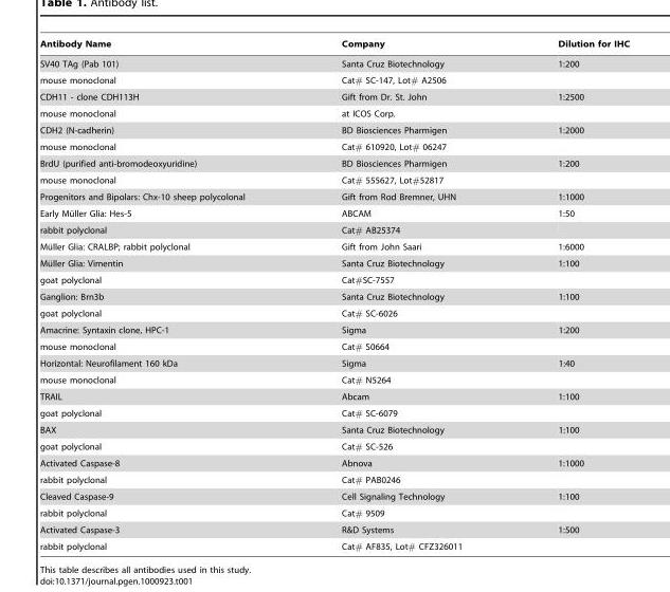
<table><thead><tr><td>Antibody Name</td><td>Company</td><td>Dilution for IHC</td></tr></thead><tbody><tr><td>SV40 TAg (Pab 101)</td><td>Santa Cruz Biotechnology</td><td>1:200</td></tr><tr><td>mouse monoclonal</td><td>Cat# SC-147, Lot# A2506</td><td></td></tr><tr><td>CDH11 - clone CDH113H</td><td>Gift from Dr. St. John</td><td>1:2500</td></tr><tr><td>mouse monoclonal</td><td>at ICOS Corp.</td><td></td></tr><tr><td>CDH2 (N-cadherin)</td><td>BD Biosciences Pharmigen</td><td>1:2000</td></tr><tr><td>mouse monoclonal</td><td>Cat# 610920, Lot# 06247</td><td></td></tr><tr><td>BrdU (purified anti-bromodeoxyuridine)</td><td>BD Biosciences Pharmigen</td><td>1:200</td></tr><tr><td>mouse monoclonal</td><td>Cat# 555627, Lot#52817</td><td></td></tr><tr><td>Progenitors and Bipolars: Chx-10 sheep polycolonal</td><td>Gift from Rod Bremner, UHN</td><td>1:1000</td></tr><tr><td>Early Mu¨ller Glia: Hes-5</td><td>ABCAM</td><td>1:50</td></tr><tr><td>rabbit polyclonal</td><td>Cat# AB25374</td><td></td></tr><tr><td>Mu¨ller Glia: CRALBP; rabbit polyclonal</td><td>Gift from John Saari</td><td>1:6000</td></tr><tr><td>Mu¨ller Glia: Vimentin</td><td>Santa Cruz Biotechnology</td><td>1:100</td></tr><tr><td>goat polyclonal</td><td>Cat#SC-7557</td><td></td></tr><tr><td>Ganglion: Brn3b</td><td>Santa Cruz Biotechnology</td><td>1:100</td></tr><tr><td>goat polyclonal</td><td>Cat# SC-6026</td><td></td></tr><tr><td>Amacrine: Syntaxin clone, HPC-1</td><td>Sigma</td><td>1:200</td></tr><tr><td>mouse monoclonal</td><td>Cat# S0664</td><td></td></tr><tr><td>Horizontal: Neurofilament 160 kDa</td><td>Sigma</td><td>1:40</td></tr><tr><td>mouse monoclonal</td><td>Cat# N5264</td><td></td></tr><tr><td>TRAIL</td><td>Abcam</td><td>1:100</td></tr><tr><td>goat polyclonal</td><td>Cat# SC-6079</td><td></td></tr><tr><td>BAX</td><td>Santa Cruz Biotechnology</td><td>1:100</td></tr><tr><td>goat polyclonal</td><td>Cat# SC-526</td><td></td></tr><tr><td>Activated Caspase-8</td><td>Abnova</td><td>1:1000</td></tr><tr><td>rabbit polyclonal</td><td>Cat# PAB0246</td><td></td></tr><tr><td>Cleaved Caspase-9</td><td>Cell Signaling Technology</td><td>1:100</td></tr><tr><td>rabbit polyclonal</td><td>Cat# 9509</td><td></td></tr><tr><td>Activated Caspase-3</td><td>R&amp;D Systems</td><td>1:500</td></tr><tr><td>rabbit polyclonal</td><td>Cat# AF835, Lot# CFZ326011</td><td></td></tr></tbody></table>